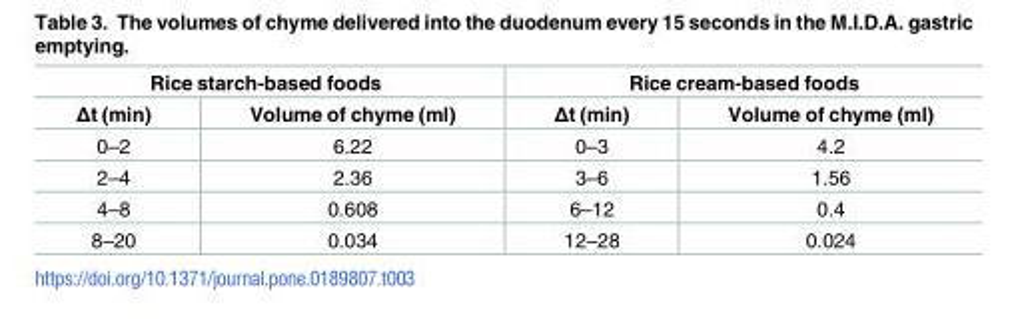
<table><thead><tr><td colspan="2">Rice starch-based foods</td><td colspan="2">Rice cream-based foods</td></tr><tr><td>Δt (min)</td><td>Volume of chyme (ml)</td><td>Δt (min)</td><td>Volume of chyme (ml)</td></tr></thead><tbody><tr><td>0–2</td><td>6.22</td><td>0–3</td><td>4.2</td></tr><tr><td>2–4</td><td>2.36</td><td>3–6</td><td>1.56</td></tr><tr><td>4–8</td><td>0.608</td><td>6–12</td><td>0.4</td></tr><tr><td>8–20</td><td>0.034</td><td>12–28</td><td>0.024</td></tr></tbody></table>